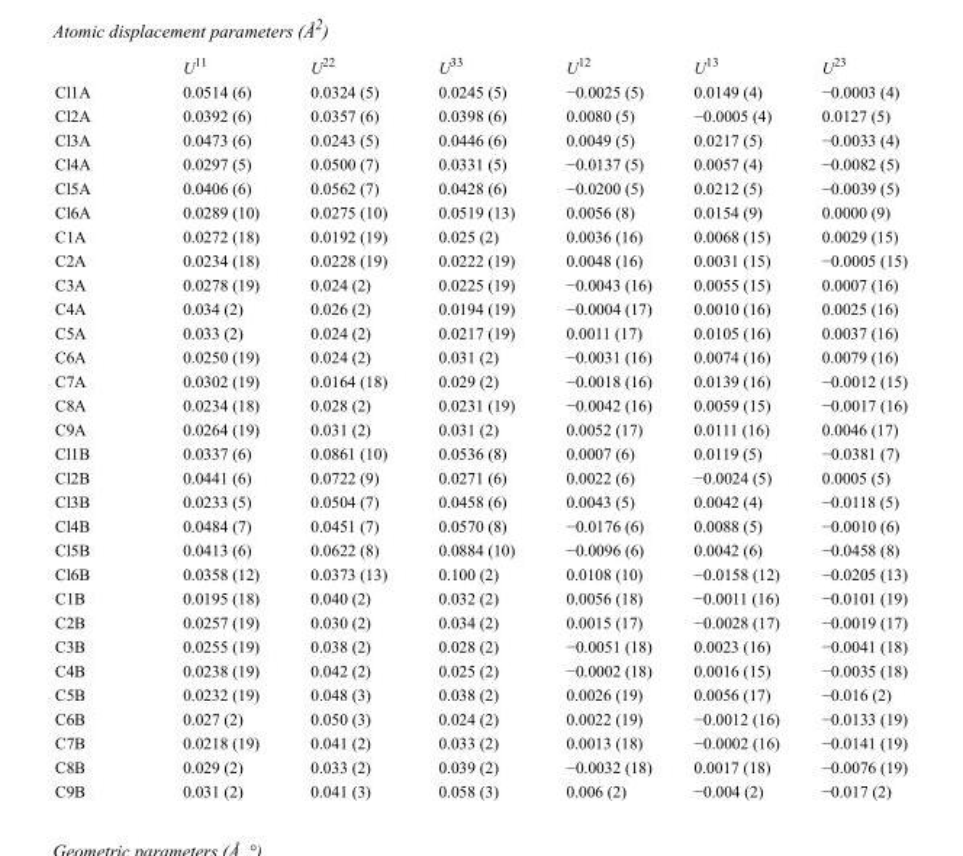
<table><thead><tr><td></td><td>U<sup>11</sup></td><td>U<sup>22</sup></td><td>U<sup>33</sup></td><td>U<sup>12</sup></td><td>U<sup>13</sup></td><td>U<sup>23</sup></td></tr></thead><tbody><tr><td>Cl1A</td><td>0.0514 (6)</td><td>0.0324 (5)</td><td>0.0245 (5)</td><td>−0.0025 (5)</td><td>0.0149 (4)</td><td>−0.0003 (4)</td></tr><tr><td>Cl2A</td><td>0.0392 (6)</td><td>0.0357 (6)</td><td>0.0398 (6)</td><td>0.0080 (5)</td><td>−0.0005 (4)</td><td>0.0127 (5)</td></tr><tr><td>Cl3A</td><td>0.0473 (6)</td><td>0.0243 (5)</td><td>0.0446 (6)</td><td>0.0049 (5)</td><td>0.0217 (5)</td><td>−0.0033 (4)</td></tr><tr><td>Cl4A</td><td>0.0297 (5)</td><td>0.0500 (7)</td><td>0.0331 (5)</td><td>−0.0137 (5)</td><td>0.0057 (4)</td><td>−0.0082 (5)</td></tr><tr><td>Cl5A</td><td>0.0406 (6)</td><td>0.0562 (7)</td><td>0.0428 (6)</td><td>−0.0200 (5)</td><td>0.0212 (5)</td><td>−0.0039 (5)</td></tr><tr><td>Cl6A</td><td>0.0289 (10)</td><td>0.0275 (10)</td><td>0.0519 (13)</td><td>0.0056 (8)</td><td>0.0154 (9)</td><td>0.0000 (9)</td></tr><tr><td>C1A</td><td>0.0272 (18)</td><td>0.0192 (19)</td><td>0.025 (2)</td><td>0.0036 (16)</td><td>0.0068 (15)</td><td>0.0029 (15)</td></tr><tr><td>C2A</td><td>0.0234 (18)</td><td>0.0228 (19)</td><td>0.0222 (19)</td><td>0.0048 (16)</td><td>0.0031 (15)</td><td>−0.0005 (15)</td></tr><tr><td>C3A</td><td>0.0278 (19)</td><td>0.024 (2)</td><td>0.0225 (19)</td><td>−0.0043 (16)</td><td>0.0055 (15)</td><td>0.0007 (16)</td></tr><tr><td>C4A</td><td>0.034 (2)</td><td>0.026 (2)</td><td>0.0194 (19)</td><td>−0.0004 (17)</td><td>0.0010 (16)</td><td>0.0025 (16)</td></tr><tr><td>C5A</td><td>0.033 (2)</td><td>0.024 (2)</td><td>0.0217 (19)</td><td>0.0011 (17)</td><td>0.0105 (16)</td><td>0.0037 (16)</td></tr><tr><td>C6A</td><td>0.0250 (19)</td><td>0.024 (2)</td><td>0.031 (2)</td><td>−0.0031 (16)</td><td>0.0074 (16)</td><td>0.0079 (16)</td></tr><tr><td>C7A</td><td>0.0302 (19)</td><td>0.0164 (18)</td><td>0.029 (2)</td><td>−0.0018 (16)</td><td>0.0139 (16)</td><td>−0.0012 (15)</td></tr><tr><td>C8A</td><td>0.0234 (18)</td><td>0.028 (2)</td><td>0.0231 (19)</td><td>−0.0042 (16)</td><td>0.0059 (15)</td><td>−0.0017 (16)</td></tr><tr><td>C9A</td><td>0.0264 (19)</td><td>0.031 (2)</td><td>0.031 (2)</td><td>0.0052 (17)</td><td>0.0111 (16)</td><td>0.0046 (17)</td></tr><tr><td>Cl1B</td><td>0.0337 (6)</td><td>0.0861 (10)</td><td>0.0536 (8)</td><td>0.0007 (6)</td><td>0.0119 (5)</td><td>−0.0381 (7)</td></tr><tr><td>Cl2B</td><td>0.0441 (6)</td><td>0.0722 (9)</td><td>0.0271 (6)</td><td>0.0022 (6)</td><td>−0.0024 (5)</td><td>0.0005 (5)</td></tr><tr><td>Cl3B</td><td>0.0233 (5)</td><td>0.0504 (7)</td><td>0.0458 (6)</td><td>0.0043 (5)</td><td>0.0042 (4)</td><td>−0.0118 (5)</td></tr><tr><td>Cl4B</td><td>0.0484 (7)</td><td>0.0451 (7)</td><td>0.0570 (8)</td><td>−0.0176 (6)</td><td>0.0088 (5)</td><td>−0.0010 (6)</td></tr><tr><td>Cl5B</td><td>0.0413 (6)</td><td>0.0622 (8)</td><td>0.0884 (10)</td><td>−0.0096 (6)</td><td>0.0042 (6)</td><td>−0.0458 (8)</td></tr><tr><td>Cl6B</td><td>0.0358 (12)</td><td>0.0373 (13)</td><td>0.100 (2)</td><td>0.0108 (10)</td><td>−0.0158 (12)</td><td>−0.0205 (13)</td></tr><tr><td>C1B</td><td>0.0195 (18)</td><td>0.040 (2)</td><td>0.032 (2)</td><td>0.0056 (18)</td><td>−0.0011 (16)</td><td>−0.0101 (19)</td></tr><tr><td>C2B</td><td>0.0257 (19)</td><td>0.030 (2)</td><td>0.034 (2)</td><td>0.0015 (17)</td><td>−0.0028 (17)</td><td>−0.0019 (17)</td></tr><tr><td>C3B</td><td>0.0255 (19)</td><td>0.038 (2)</td><td>0.028 (2)</td><td>−0.0051 (18)</td><td>0.0023 (16)</td><td>−0.0041 (18)</td></tr><tr><td>C4B</td><td>0.0238 (19)</td><td>0.042 (2)</td><td>0.025 (2)</td><td>−0.0002 (18)</td><td>0.0016 (15)</td><td>−0.0035 (18)</td></tr><tr><td>C5B</td><td>0.0232 (19)</td><td>0.048 (3)</td><td>0.038 (2)</td><td>0.0026 (19)</td><td>0.0056 (17)</td><td>−0.016 (2)</td></tr><tr><td>C6B</td><td>0.027 (2)</td><td>0.050 (3)</td><td>0.024 (2)</td><td>0.0022 (19)</td><td>−0.0012 (16)</td><td>−0.0133 (19)</td></tr><tr><td>C7B</td><td>0.0218 (19)</td><td>0.041 (2)</td><td>0.033 (2)</td><td>0.0013 (18)</td><td>−0.0002 (16)</td><td>−0.0141 (19)</td></tr><tr><td>C8B</td><td>0.029 (2)</td><td>0.033 (2)</td><td>0.039 (2)</td><td>−0.0032 (18)</td><td>0.0017 (18)</td><td>−0.0076 (19)</td></tr><tr><td>C9B</td><td>0.031 (2)</td><td>0.041 (3)</td><td>0.058 (3)</td><td>0.006 (2)</td><td>−0.004 (2)</td><td>−0.017 (2)</td></tr></tbody></table>